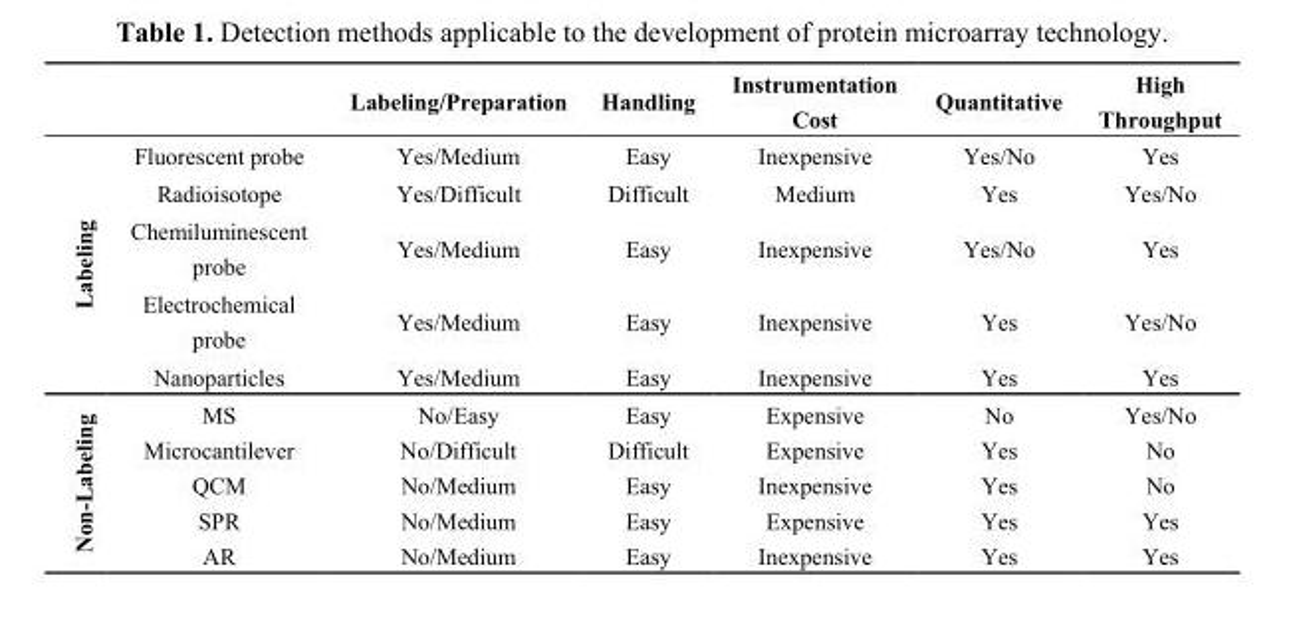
<table><thead><tr><td></td><td></td><td>Labeling/Preparation</td><td>Handling</td><td>Instrumentation Cost</td><td>Quantitative</td><td>High Throughput</td></tr></thead><tbody><tr><td rowspan="5">Labeling</td><td>Fluorescent probe</td><td>Yes/Medium</td><td>Easy</td><td>Inexpensive</td><td>Yes/No</td><td>Yes</td></tr><tr><td>Radioisotope</td><td>Yes/Difficult</td><td>Difficult</td><td>Medium</td><td>Yes</td><td>Yes/No</td></tr><tr><td>Chemiluminescent probe</td><td>Yes/Medium</td><td>Easy</td><td>Inexpensive</td><td>Yes/No</td><td>Yes</td></tr><tr><td>Electrochemical probe</td><td>Yes/Medium</td><td>Easy</td><td>Inexpensive</td><td>Yes</td><td>Yes/No</td></tr><tr><td>Nanoparticles</td><td>Yes/Medium</td><td>Easy</td><td>Inexpensive</td><td>Yes</td><td>Yes</td></tr><tr><td rowspan="5">Non-Labeling</td><td>MS</td><td>No/Easy</td><td>Easy</td><td>Expensive</td><td>No</td><td>Yes/No</td></tr><tr><td>Microcantilever</td><td>No/Difficult</td><td>Difficult</td><td>Expensive</td><td>Yes</td><td>No</td></tr><tr><td>QCM</td><td>No/Medium</td><td>Easy</td><td>Inexpensive</td><td>Yes</td><td>No</td></tr><tr><td>SPR</td><td>No/Medium</td><td>Easy</td><td>Expensive</td><td>Yes</td><td>Yes</td></tr><tr><td>AR</td><td>No/Medium</td><td>Easy</td><td>Inexpensive</td><td>Yes</td><td>Yes</td></tr></tbody></table>